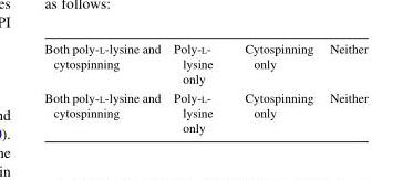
<table><tbody><tr><td>Both poly-L-lysine and cytospinning</td><td>Poly-L- lysine only</td><td>Cytospinning only</td><td>Neither</td></tr><tr><td>Both poly-L-lysine and cytospinning</td><td>Poly-L- lysine only</td><td>Cytospinning only</td><td>Neither</td></tr></tbody></table>